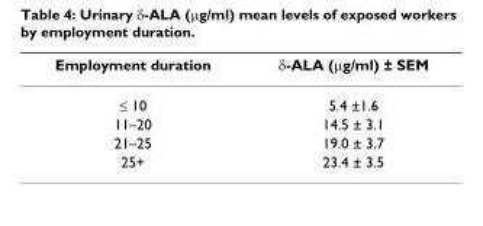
<table><thead><tr><td>Employment duration</td><td>δ-ALA (μg/ml) ± SEM</td></tr></thead><tbody><tr><td>≤ 10</td><td>5.4 ±1.6</td></tr><tr><td>11–20</td><td>14.5 ± 3.1</td></tr><tr><td>21–25</td><td>19.0 ± 3.7</td></tr><tr><td>25+</td><td>23.4 ± 3.5</td></tr></tbody></table>